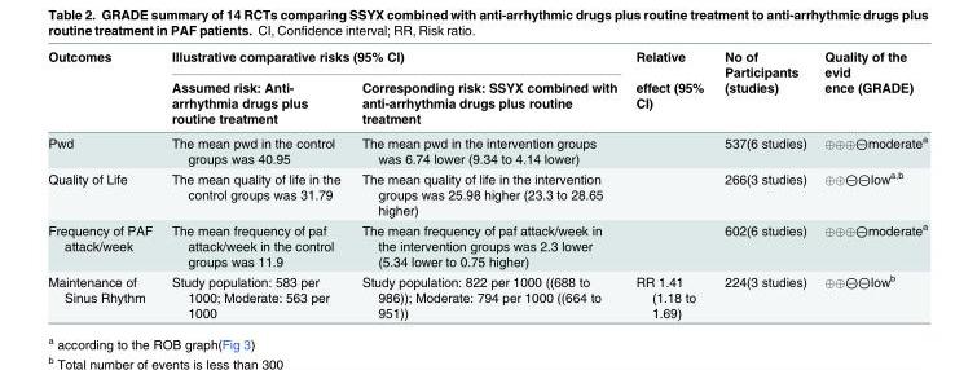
<table><thead><tr><td rowspan="2">Outcomes</td><td colspan="2">Illustrative comparative risks (95% CI)</td><td rowspan="2">Relative effect (95% CI)</td><td rowspan="2">No of Participants (studies)</td><td rowspan="2">Quality of the evid ence (GRADE)</td></tr><tr><td>Assumed risk: Anti- arrhythmia drugs plus routine treatment</td><td>Corresponding risk: SSYX combined with anti-arrhythmia drugs plus routine treatment</td></tr></thead><tbody><tr><td>Pwd</td><td>The mean pwd in the control groups was 40.95</td><td>The mean pwd in the intervention groups was 6.74 lower (9.34 to 4.14 lower)</td><td></td><td>537(6 studies)</td><td>⊕⊕⊕⊝moderate<sup>a</sup></td></tr><tr><td>Quality of Life</td><td>The mean quality of life in the control groups was 31.79</td><td>The mean quality of life in the intervention groups was 25.98 higher (23.3 to 28.65 higher)</td><td></td><td>266(3 studies)</td><td>⊕⊕⊝⊝low<sup>a,b</sup></td></tr><tr><td>Frequency of PAF attack/week</td><td>The mean frequency of paf attack/week in the control groups was 11.9</td><td>The mean frequency of paf attack/week in the intervention groups was 2.3 lower (5.34 lower to 0.75 higher)</td><td></td><td>602(6 studies)</td><td>⊕⊕⊕⊝moderate<sup>a</sup></td></tr><tr><td>Maintenance of Sinus Rhythm</td><td>Study population: 583 per 1000; Moderate: 563 per 1000</td><td>Study population: 822 per 1000 ((688 to 986)); Moderate: 794 per 1000 ((664 to 951))</td><td>RR 1.41 (1.18 to 1.69)</td><td>224(3 studies)</td><td>⊕⊕⊝⊝low<sup>b</sup></td></tr></tbody></table>